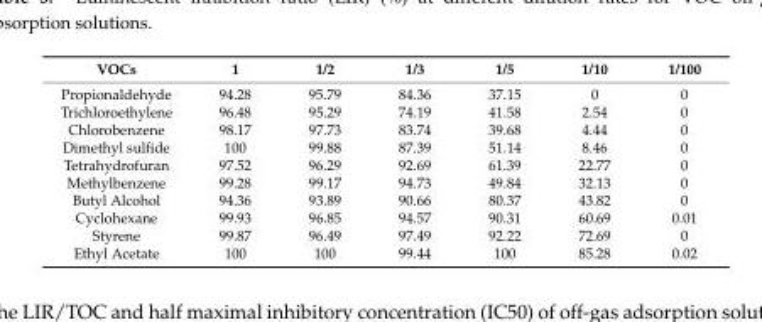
<table><thead><tr><td>VOCs</td><td>1</td><td>1/2</td><td>1/3</td><td>1/5</td><td>1/10</td><td>1/100</td></tr></thead><tbody><tr><td>Propionaldehyde</td><td>94.28</td><td>95.79</td><td>84.36</td><td>37.15</td><td>0</td><td>0</td></tr><tr><td>Trichloroethylene</td><td>96.48</td><td>95.29</td><td>74.19</td><td>41.58</td><td>2.54</td><td>0</td></tr><tr><td>Chlorobenzene</td><td>98.17</td><td>97.73</td><td>83.74</td><td>39.68</td><td>4.44</td><td>0</td></tr><tr><td>Dimethyl sulfide</td><td>100</td><td>99.88</td><td>87.39</td><td>51.14</td><td>8.46</td><td>0</td></tr><tr><td>Tetrahydrofuran</td><td>97.52</td><td>96.29</td><td>92.69</td><td>61.39</td><td>22.77</td><td>0</td></tr><tr><td>Methylbenzene</td><td>99.28</td><td>99.17</td><td>94.73</td><td>49.84</td><td>32.13</td><td>0</td></tr><tr><td>Butyl Alcohol</td><td>94.36</td><td>93.89</td><td>90.66</td><td>80.37</td><td>43.82</td><td>0</td></tr><tr><td>Cyclohexane</td><td>99.93</td><td>96.85</td><td>94.57</td><td>90.31</td><td>60.69</td><td>0.01</td></tr><tr><td>Styrene</td><td>99.87</td><td>96.49</td><td>97.49</td><td>92.22</td><td>72.69</td><td>0</td></tr><tr><td>Ethyl Acetate</td><td>100</td><td>100</td><td>99.44</td><td>100</td><td>85.28</td><td>0.02</td></tr></tbody></table>